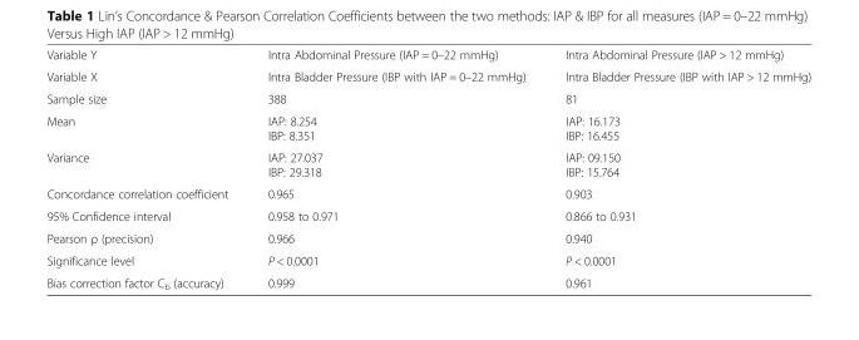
<table><tbody><tr><td>Variable Y</td><td>Intra Abdominal Pressure (IAP = 0–22 mmHg)</td><td>Intra Abdominal Pressure (IAP &gt; 12 mmHg)</td></tr><tr><td>Variable X</td><td>Intra Bladder Pressure (IBP with IAP = 0–22 mmHg)</td><td>Intra Bladder Pressure (IBP with IAP &gt; 12 mmHg)</td></tr><tr><td>Sample size</td><td>388</td><td>81</td></tr><tr><td>Mean</td><td>IAP: 8.254 IBP: 8.351</td><td>IAP: 16.173 IBP: 16.455</td></tr><tr><td>Variance</td><td>IAP: 27.037 IBP: 29.318</td><td>IAP: 09.150 IBP: 15.764</td></tr><tr><td>Concordance correlation coefficient</td><td>0.965</td><td>0.903</td></tr><tr><td>95% Confidence interval</td><td>0.958 to 0.971</td><td>0.866 to 0.931</td></tr><tr><td>Pearson ρ (precision)</td><td>0.966</td><td>0.940</td></tr><tr><td>Significance level</td><td>P &lt; 0.0001</td><td>P &lt; 0.0001</td></tr><tr><td>Bias correction factor C<sub>b</sub> (accuracy)</td><td>0.999</td><td>0.961</td></tr></tbody></table>